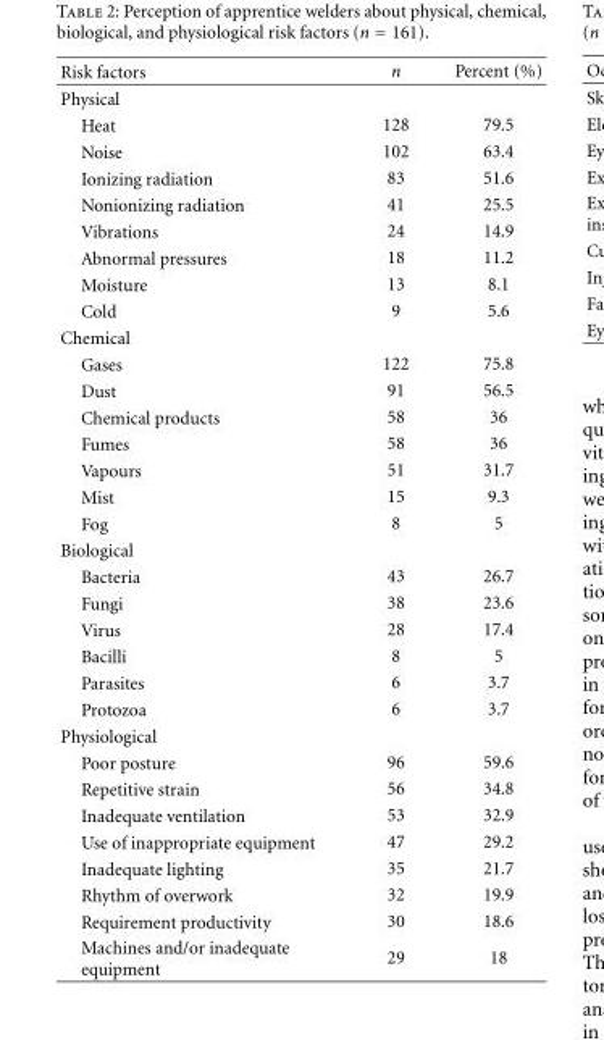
<table><thead><tr><td>Risk factors</td><td>n</td><td>Percent (%)</td></tr></thead><tbody><tr><td colspan="3">Physical</td></tr><tr><td>Heat</td><td>128</td><td>79.5</td></tr><tr><td>Noise</td><td>102</td><td>63.4</td></tr><tr><td>Ionizing radiation</td><td>83</td><td>51.6</td></tr><tr><td>Nonionizing radiation</td><td>41</td><td>25.5</td></tr><tr><td>Vibrations</td><td>24</td><td>14.9</td></tr><tr><td>Abnormal pressures</td><td>18</td><td>11.2</td></tr><tr><td>Moisture</td><td>13</td><td>8.1</td></tr><tr><td>Cold</td><td>9</td><td>5.6</td></tr><tr><td colspan="3">Chemical</td></tr><tr><td>Gases</td><td>122</td><td>75.8</td></tr><tr><td>Dust</td><td>91</td><td>56.5</td></tr><tr><td>Chemical products</td><td>58</td><td>36</td></tr><tr><td>Fumes</td><td>58</td><td>36</td></tr><tr><td>Vapours</td><td>51</td><td>31.7</td></tr><tr><td>Mist</td><td>15</td><td>9.3</td></tr><tr><td>Fog</td><td>8</td><td>5</td></tr><tr><td colspan="3">Biological</td></tr><tr><td>Bacteria</td><td>43</td><td>26.7</td></tr><tr><td>Fungi</td><td>38</td><td>23.6</td></tr><tr><td>Virus</td><td>28</td><td>17.4</td></tr><tr><td>Bacilli</td><td>8</td><td>5</td></tr><tr><td>Parasites</td><td>6</td><td>3.7</td></tr><tr><td>Protozoa</td><td>6</td><td>3.7</td></tr><tr><td colspan="3">Physiological</td></tr><tr><td>Poor posture</td><td>96</td><td>59.6</td></tr><tr><td>Repetitive strain</td><td>56</td><td>34.8</td></tr><tr><td>Inadequate ventilation</td><td>53</td><td>32.9</td></tr><tr><td>Use of inappropriate equipment</td><td>47</td><td>29.2</td></tr><tr><td>Inadequate lighting</td><td>35</td><td>21.7</td></tr><tr><td>Rhythm of overwork</td><td>32</td><td>19.9</td></tr><tr><td>Requirement productivity</td><td>30</td><td>18.6</td></tr><tr><td>Machines and/or inadequate equipment</td><td>29</td><td>18</td></tr></tbody></table>